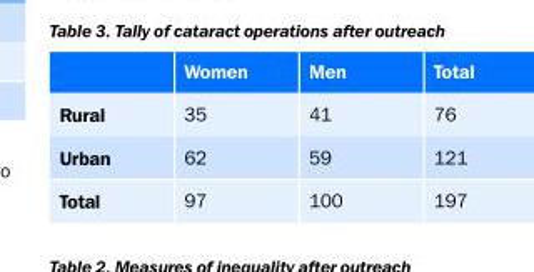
<table><thead><tr><td></td><td>Women</td><td>Men</td><td>Total</td></tr></thead><tbody><tr><td>Rural</td><td>35</td><td>41</td><td>76</td></tr><tr><td>Urban</td><td>62</td><td>59</td><td>121</td></tr><tr><td>Total</td><td>97</td><td>100</td><td>197</td></tr></tbody></table>